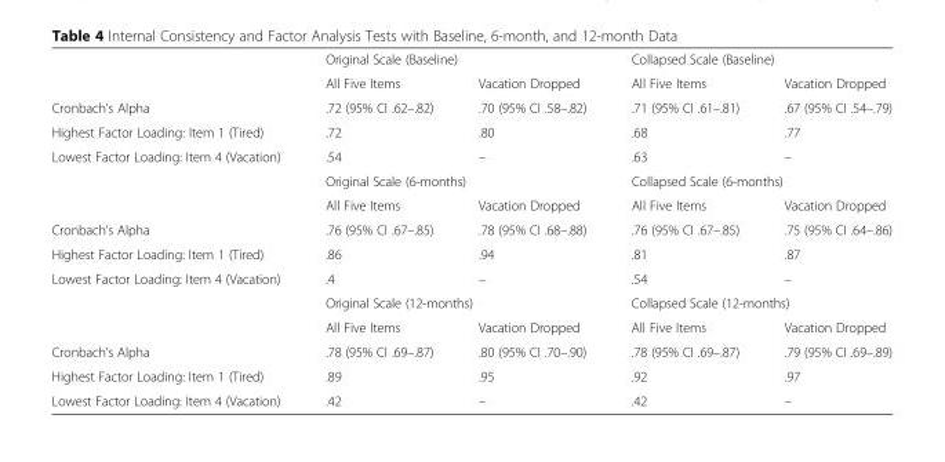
<table><thead><tr><td rowspan="2"></td><td colspan="2">Original Scale (Baseline)</td><td colspan="2">Collapsed Scale (Baseline)</td></tr><tr><td>All Five Items</td><td>Vacation Dropped</td><td>All Five Items</td><td>Vacation Dropped</td></tr></thead><tbody><tr><td>Cronbach’s Alpha</td><td>.72 (95% CI .62–.82)</td><td>.70 (95% CI .58–.82)</td><td>.71 (95% CI .61–.81)</td><td>.67 (95% CI .54–.79)</td></tr><tr><td>Highest Factor Loading: Item 1 (Tired)</td><td>.72</td><td>.80</td><td>.68</td><td>.77</td></tr><tr><td rowspan="3">Lowest Factor Loading: Item 4 (Vacation)</td><td>.54</td><td>–</td><td>.63</td><td>–</td></tr><tr><td colspan="2">Original Scale (6-months)</td><td colspan="2">Collapsed Scale (6-months)</td></tr><tr><td>All Five Items</td><td>Vacation Dropped</td><td>All Five Items</td><td>Vacation Dropped</td></tr><tr><td>Cronbach’s Alpha</td><td>.76 (95% CI .67–.85)</td><td>.78 (95% CI .68–.88)</td><td>.76 (95% CI .67–.85)</td><td>.75 (95% CI .64–.86)</td></tr><tr><td>Highest Factor Loading: Item 1 (Tired)</td><td>.86</td><td>.94</td><td>.81</td><td>.87</td></tr><tr><td rowspan="3">Lowest Factor Loading: Item 4 (Vacation)</td><td>.4</td><td>–</td><td>.54</td><td>–</td></tr><tr><td colspan="2">Original Scale (12-months)</td><td colspan="2">Collapsed Scale (12-months)</td></tr><tr><td>All Five Items</td><td>Vacation Dropped</td><td>All Five Items</td><td>Vacation Dropped</td></tr><tr><td>Cronbach’s Alpha</td><td>.78 (95% CI .69–.87)</td><td>.80 (95% CI .70–.90)</td><td>.78 (95% CI .69–.87)</td><td>.79 (95% CI .69–.89)</td></tr><tr><td>Highest Factor Loading: Item 1 (Tired)</td><td>.89</td><td>.95</td><td>.92</td><td>.97</td></tr><tr><td>Lowest Factor Loading: Item 4 (Vacation)</td><td>.42</td><td>–</td><td>.42</td><td>–</td></tr></tbody></table>